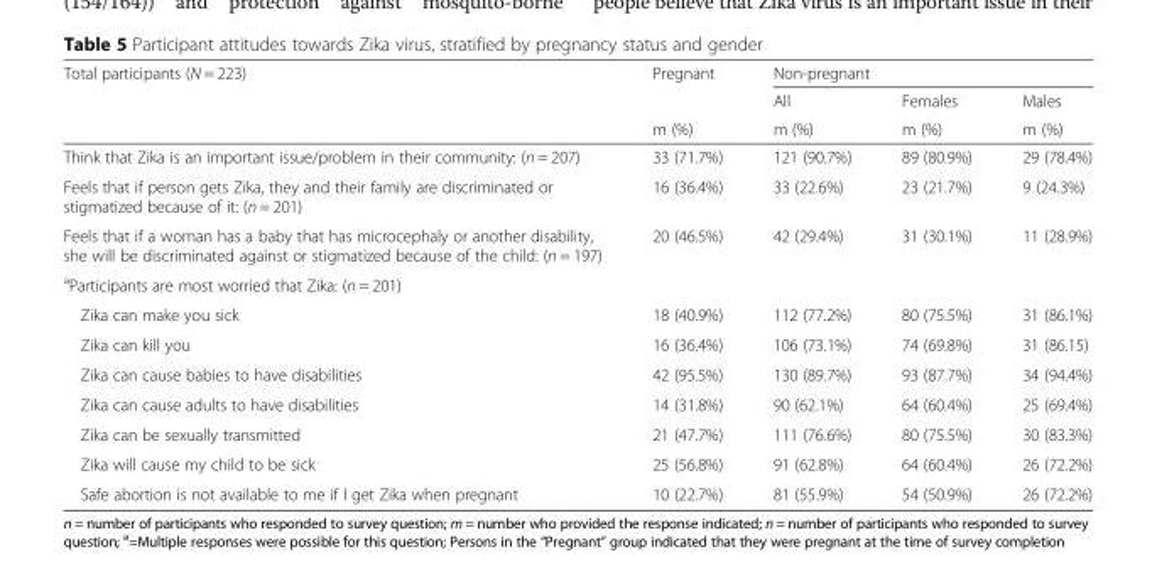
<table><thead><tr><td rowspan="3">Total participants (N = 223)</td><td rowspan="3">Pregnant m (%)</td><td colspan="3">Non-pregnant</td></tr><tr><td rowspan="2">All m (%)</td><td rowspan="2">Females m (%)</td><td rowspan="2">Males m (%)</td></tr><tr></tr></thead><tbody><tr><td>Think that Zika is an important issue/problem in their community: (n = 207)</td><td>33 (71.7%)</td><td>121 (90.7%)</td><td>89 (80.9%)</td><td>29 (78.4%)</td></tr><tr><td>Feels that if person gets Zika, they and their family are discriminated or stigmatized because of it: (n = 201)</td><td>16 (36.4%)</td><td>33 (22.6%)</td><td>23 (21.7%)</td><td>9 (24.3%)</td></tr><tr><td>Feels that if a woman has a baby that has microcephaly or another disability, she will be discriminated against or stigmatized because of the child: (n = 197)</td><td>20 (46.5%)</td><td>42 (29.4%)</td><td>31 (30.1%)</td><td>11 (28.9%)</td></tr><tr><td colspan="5"><sup>a</sup>Participants are most worried that Zika: (n = 201)</td></tr><tr><td>Zika can make you sick</td><td>18 (40.9%)</td><td>112 (77.2%)</td><td>80 (75.5%)</td><td>31 (86.1%)</td></tr><tr><td>Zika can kill you</td><td>16 (36.4%)</td><td>106 (73.1%)</td><td>74 (69.8%)</td><td>31 (86.15)</td></tr><tr><td>Zika can cause babies to have disabilities</td><td>42 (95.5%)</td><td>130 (89.7%)</td><td>93 (87.7%)</td><td>34 (94.4%)</td></tr><tr><td>Zika can cause adults to have disabilities</td><td>14 (31.8%)</td><td>90 (62.1%)</td><td>64 (60.4%)</td><td>25 (69.4%)</td></tr><tr><td>Zika can be sexually transmitted</td><td>21 (47.7%)</td><td>111 (76.6%)</td><td>80 (75.5%)</td><td>30 (83.3%)</td></tr><tr><td>Zika will cause my child to be sick</td><td>25 (56.8%)</td><td>91 (62.8%)</td><td>64 (60.4%)</td><td>26 (72.2%)</td></tr><tr><td>Safe abortion is not available to me if I get Zika when pregnant</td><td>10 (22.7%)</td><td>81 (55.9%)</td><td>54 (50.9%)</td><td>26 (72.2%)</td></tr></tbody></table>